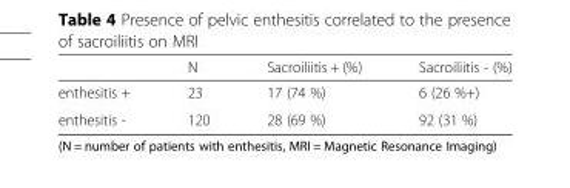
<table><thead><tr><td></td><td>N</td><td>Sacroiliitis + (%)</td><td>Sacroiliitis - (%)</td></tr></thead><tbody><tr><td>enthesitis +</td><td>23</td><td>17 (74 %)</td><td>6 (26 %+)</td></tr><tr><td>enthesitis -</td><td>120</td><td>28 (69 %)</td><td>92 (31 %)</td></tr></tbody></table>